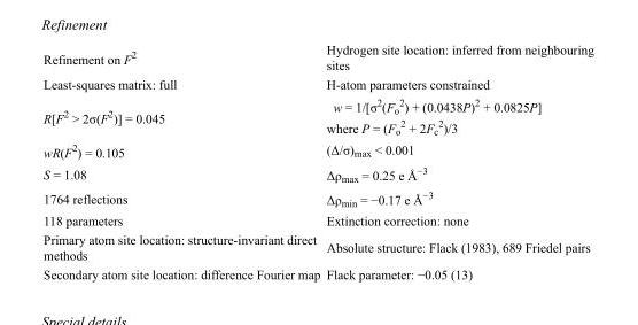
<table><tbody><tr><td>Refinement on F<sup>2</sup></td><td>Hydrogen site location: inferred from neighbouring sites</td></tr><tr><td>Least-squares matrix: full</td><td>H-atom parameters constrained</td></tr><tr><td>R[F<sup>2</sup> &gt; 2σ(F<sup>2</sup>)] = 0.045</td><td>w = 1/[σ<sup>2</sup>(F<sub>o</sub> <sup>2</sup>) + (0.0438P)<sup>2</sup> + 0.0825P] where P = (F<sub>o</sub> <sup>2</sup> + 2F<sub>c</sub> <sup>2</sup>)/3</td></tr><tr><td>wR(F<sup>2</sup>) = 0.105</td><td>(Δ/σ)<sub>max</sub> &lt; 0.001</td></tr><tr><td>S = 1.08</td><td>Δρ<sub>max</sub> = 0.25 e Å<sup>−3</sup></td></tr><tr><td>1764 reflections</td><td>Δρ<sub>min</sub> = −0.17 e Å<sup>−3</sup></td></tr><tr><td>118 parameters</td><td>Extinction correction: none</td></tr><tr><td>Primary atom site location: structure-invariant direct methods</td><td>Absolute structure: Flack (1983), 689 Friedel pairs</td></tr><tr><td>Secondary atom site location: difference Fourier map</td><td>Flack parameter: −0.05 (13)</td></tr></tbody></table>